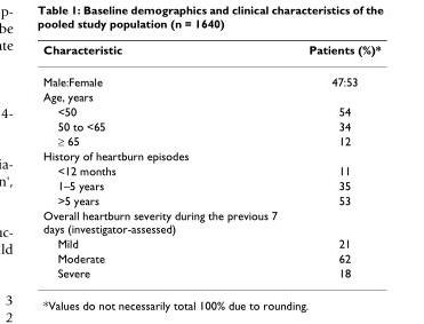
<table><thead><tr><td>Characteristic</td><td>Patients (%)*</td></tr></thead><tbody><tr><td>Male:Female</td><td>47:53</td></tr><tr><td colspan="2">Age, years</td></tr><tr><td>&lt;50</td><td>54</td></tr><tr><td>50 to &lt;65</td><td>34</td></tr><tr><td>≥ 65</td><td>12</td></tr><tr><td colspan="2">History of heartburn episodes</td></tr><tr><td>&lt;12 months</td><td>11</td></tr><tr><td>1–5 years</td><td>35</td></tr><tr><td>&gt;5 years</td><td>53</td></tr><tr><td colspan="2">Overall heartburn severity during the previous 7 days (investigator-assessed)</td></tr><tr><td>Mild</td><td>21</td></tr><tr><td>Moderate</td><td>62</td></tr><tr><td>Severe</td><td>18</td></tr></tbody></table>